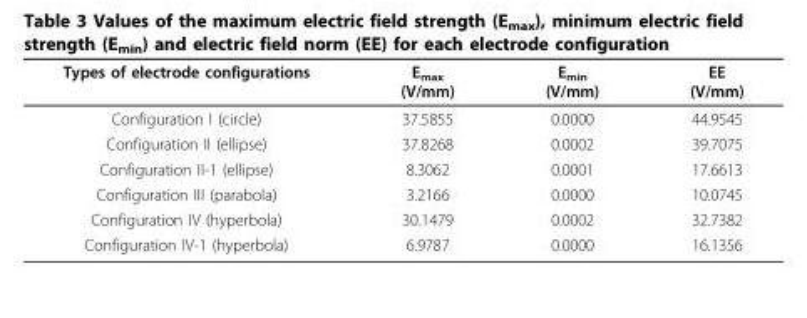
<table><thead><tr><td>Types of electrode configurations</td><td>E<sub>max</sub> (V/mm)</td><td>E<sub>min</sub> (V/mm)</td><td>EE (V/mm)</td></tr></thead><tbody><tr><td>Configuration I (circle)</td><td>37.5855</td><td>0.0000</td><td>44.9545</td></tr><tr><td>Configuration II (ellipse)</td><td>37.8268</td><td>0.0002</td><td>39.7075</td></tr><tr><td>Configuration II-1 (ellipse)</td><td>8.3062</td><td>0.0001</td><td>17.6613</td></tr><tr><td>Configuration III (parabola)</td><td>3.2166</td><td>0.0000</td><td>10.0745</td></tr><tr><td>Configuration IV (hyperbola)</td><td>30.1479</td><td>0.0002</td><td>32.7382</td></tr><tr><td>Configuration IV-1 (hyperbola)</td><td>6.9787</td><td>0.0000</td><td>16.1356</td></tr></tbody></table>